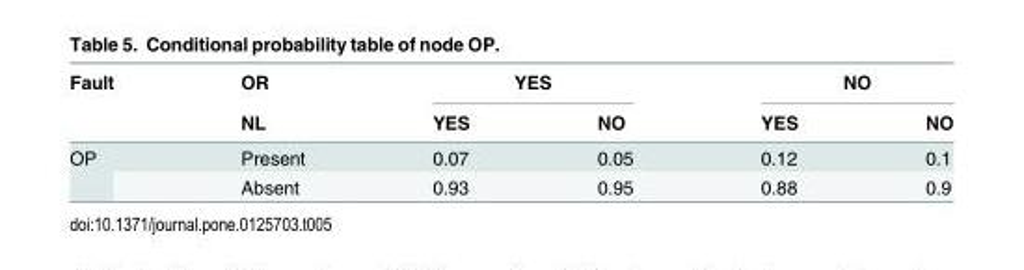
<table><thead><tr><td rowspan="2">Fault</td><td rowspan="2">OR NL</td><td colspan="2">YES</td><td colspan="2">NO</td></tr><tr><td>YES</td><td>NO</td><td>YES</td><td>NO</td></tr></thead><tbody><tr><td rowspan="2">OP</td><td>Present</td><td>0.07</td><td>0.05</td><td>0.12</td><td>0.1</td></tr><tr><td>Absent</td><td>0.93</td><td>0.95</td><td>0.88</td><td>0.9</td></tr></tbody></table>